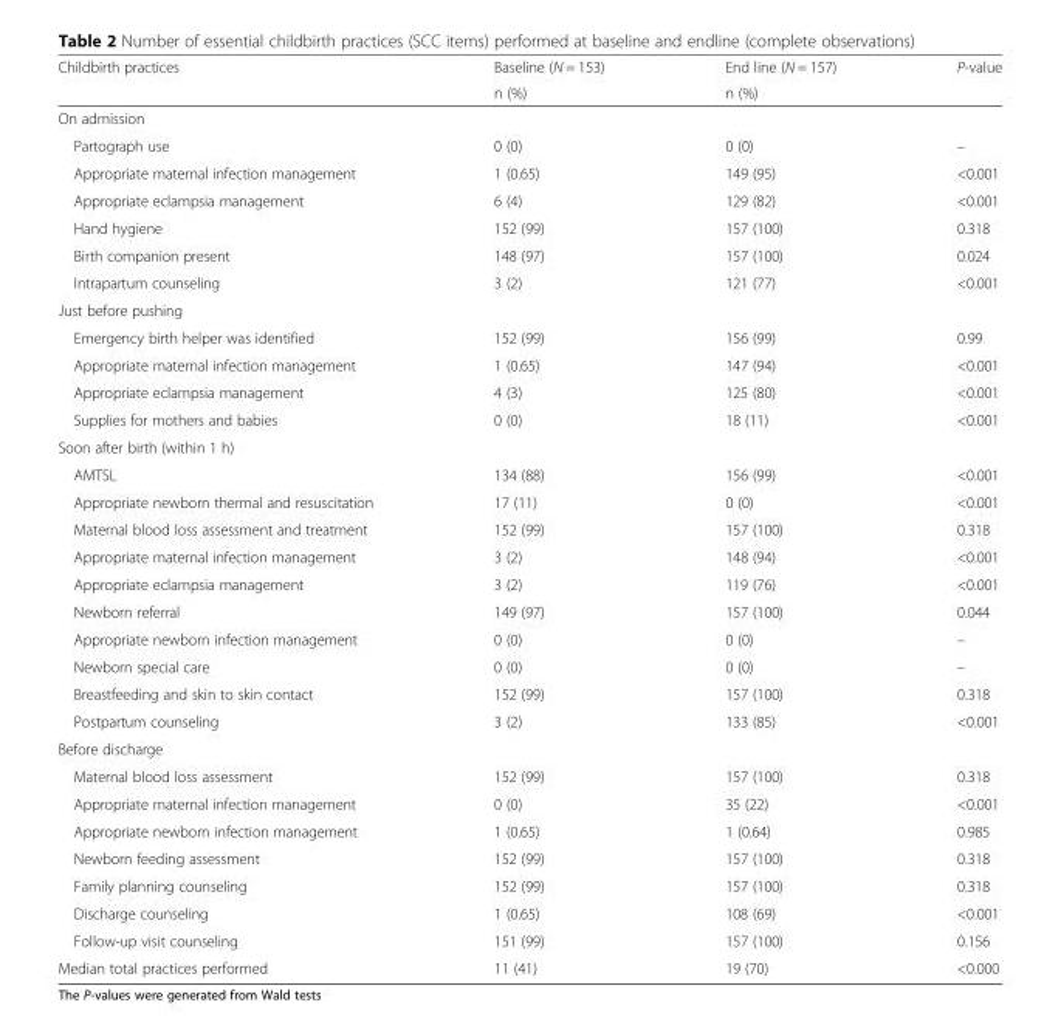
<table><thead><tr><td rowspan="2">Childbirth practices</td><td rowspan="2">Baseline (N = 153) n (%)</td><td rowspan="2">End line (N = 157) n (%)</td><td rowspan="2">P-value</td></tr><tr></tr></thead><tbody><tr><td colspan="4">On admission</td></tr><tr><td>Partograph use</td><td>0 (0)</td><td>0 (0)</td><td>–</td></tr><tr><td>Appropriate maternal infection management</td><td>1 (0.65)</td><td>149 (95)</td><td>&lt;0.001</td></tr><tr><td>Appropriate eclampsia management</td><td>6 (4)</td><td>129 (82)</td><td>&lt;0.001</td></tr><tr><td>Hand hygiene</td><td>152 (99)</td><td>157 (100)</td><td>0.318</td></tr><tr><td>Birth companion present</td><td>148 (97)</td><td>157 (100)</td><td>0.024</td></tr><tr><td>Intrapartum counseling</td><td>3 (2)</td><td>121 (77)</td><td>&lt;0.001</td></tr><tr><td colspan="4">Just before pushing</td></tr><tr><td>Emergency birth helper was identified</td><td>152 (99)</td><td>156 (99)</td><td>0.99</td></tr><tr><td>Appropriate maternal infection management</td><td>1 (0.65)</td><td>147 (94)</td><td>&lt;0.001</td></tr><tr><td>Appropriate eclampsia management</td><td>4 (3)</td><td>125 (80)</td><td>&lt;0.001</td></tr><tr><td>Supplies for mothers and babies</td><td>0 (0)</td><td>18 (11)</td><td>&lt;0.001</td></tr><tr><td colspan="4">Soon after birth (within 1 h)</td></tr><tr><td>AMTSL</td><td>134 (88)</td><td>156 (99)</td><td>&lt;0.001</td></tr><tr><td>Appropriate newborn thermal and resuscitation</td><td>17 (11)</td><td>0 (0)</td><td>&lt;0.001</td></tr><tr><td>Maternal blood loss assessment and treatment</td><td>152 (99)</td><td>157 (100)</td><td>0.318</td></tr><tr><td>Appropriate maternal infection management</td><td>3 (2)</td><td>148 (94)</td><td>&lt;0.001</td></tr><tr><td>Appropriate eclampsia management</td><td>3 (2)</td><td>119 (76)</td><td>&lt;0.001</td></tr><tr><td>Newborn referral</td><td>149 (97)</td><td>157 (100)</td><td>0.044</td></tr><tr><td>Appropriate newborn infection management</td><td>0 (0)</td><td>0 (0)</td><td>–</td></tr><tr><td>Newborn special care</td><td>0 (0)</td><td>0 (0)</td><td>–</td></tr><tr><td>Breastfeeding and skin to skin contact</td><td>152 (99)</td><td>157 (100)</td><td>0.318</td></tr><tr><td>Postpartum counseling</td><td>3 (2)</td><td>133 (85)</td><td>&lt;0.001</td></tr><tr><td colspan="4">Before discharge</td></tr><tr><td>Maternal blood loss assessment</td><td>152 (99)</td><td>157 (100)</td><td>0.318</td></tr><tr><td>Appropriate maternal infection management</td><td>0 (0)</td><td>35 (22)</td><td>&lt;0.001</td></tr><tr><td>Appropriate newborn infection management</td><td>1 (0.65)</td><td>1 (0.64)</td><td>0.985</td></tr><tr><td>Newborn feeding assessment</td><td>152 (99)</td><td>157 (100)</td><td>0.318</td></tr><tr><td>Family planning counseling</td><td>152 (99)</td><td>157 (100)</td><td>0.318</td></tr><tr><td>Discharge counseling</td><td>1 (0.65)</td><td>108 (69)</td><td>&lt;0.001</td></tr><tr><td>Follow-up visit counseling</td><td>151 (99)</td><td>157 (100)</td><td>0.156</td></tr><tr><td>Median total practices performed</td><td>11 (41)</td><td>19 (70)</td><td>&lt;0.000</td></tr></tbody></table>